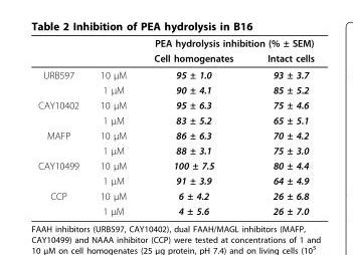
<table><thead><tr><td rowspan="2"></td><td rowspan="2"></td><td colspan="2">PEA hydrolysis inhibition (% ± SEM)</td></tr><tr><td>Cell homogenates</td><td>Intact cells</td></tr></thead><tbody><tr><td rowspan="2">URB597</td><td>10 μM</td><td>95 ± 1.0</td><td>93 ± 3.7</td></tr><tr><td>1 μM</td><td>90 ± 4.1</td><td>85 ± 5.2</td></tr><tr><td rowspan="2">CAY10402</td><td>10 μM</td><td>95 ± 6.3</td><td>75 ± 4.6</td></tr><tr><td>1 μM</td><td>83 ± 5.2</td><td>65 ± 5.1</td></tr><tr><td rowspan="2">MAFP</td><td>10 μM</td><td>86 ± 6.3</td><td>70 ± 4.2</td></tr><tr><td>1 μM</td><td>88 ± 3.1</td><td>75 ± 3.0</td></tr><tr><td rowspan="2">CAY10499</td><td>10 μM</td><td>100 ± 7.5</td><td>80 ± 4.4</td></tr><tr><td>1 μM</td><td>91 ± 3.9</td><td>64 ± 4.9</td></tr><tr><td rowspan="2">CCP</td><td>10 μM</td><td>6 ± 4.2</td><td>26 ± 6.8</td></tr><tr><td>1 μM</td><td>4 ± 5.6</td><td>26 ± 7.0</td></tr></tbody></table>